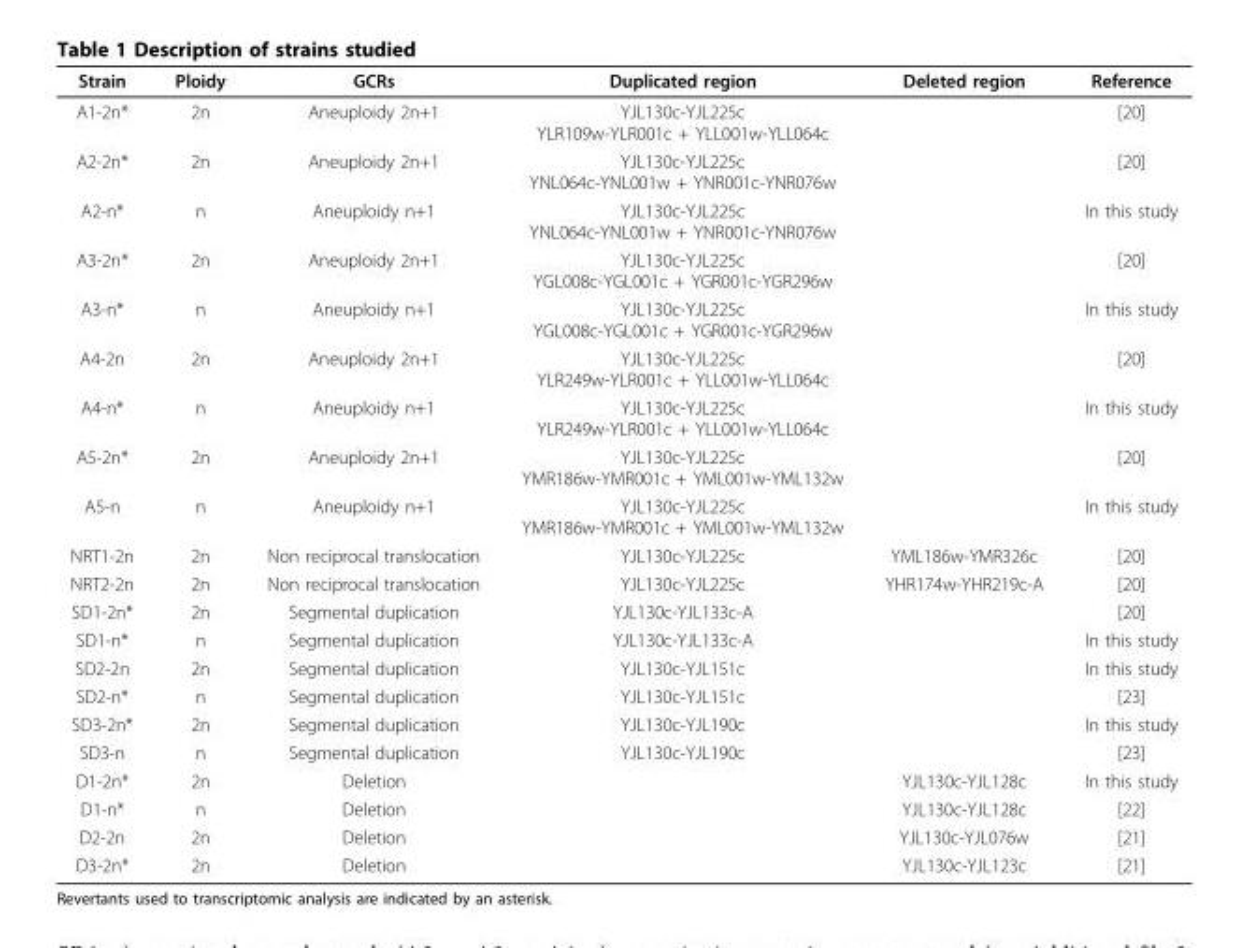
<table><thead><tr><td>Strain</td><td>Ploidy</td><td>GCRs</td><td>Duplicated region</td><td>Deleted region</td><td>Reference</td></tr></thead><tbody><tr><td>A1-2n*</td><td>2n</td><td>Aneuploidy 2n+1</td><td>YJL130c-YJL225c YLR109w-YLR001c + YLL001w-YLL064c</td><td></td><td>[20]</td></tr><tr><td>A2-2n*</td><td>2n</td><td>Aneuploidy 2n+1</td><td>YJL130c-YJL225c YNL064c-YNL001w + YNR001c-YNR076w</td><td></td><td>[20]</td></tr><tr><td>A2-n*</td><td>n</td><td>Aneuploidy n+1</td><td>YJL130c-YJL225c YNL064c-YNL001w + YNR001c-YNR076w</td><td></td><td>In this study</td></tr><tr><td>A3-2n*</td><td>2n</td><td>Aneuploidy 2n+1</td><td>YJL130c-YJL225c YGL008c-YGL001c + YGR001c-YGR296w</td><td></td><td>[20]</td></tr><tr><td>A3-n*</td><td>n</td><td>Aneuploidy n+1</td><td>YJL130c-YJL225c YGL008c-YGL001c + YGR001c-YGR296w</td><td></td><td>In this study</td></tr><tr><td>A4-2n</td><td>2n</td><td>Aneuploidy 2n+1</td><td>YJL130c-YJL225c YLR249w-YLR001c + YLL001w-YLL064c</td><td></td><td>[20]</td></tr><tr><td>A4-n*</td><td>n</td><td>Aneuploidy n+1</td><td>YJL130c-YJL225c YLR249w-YLR001c + YLL001w-YLL064c</td><td></td><td>In this study</td></tr><tr><td>A5-2n*</td><td>2n</td><td>Aneuploidy 2n+1</td><td>YJL130c-YJL225c YMR186w-YMR001c + YML001w-YML132w</td><td></td><td>[20]</td></tr><tr><td>A5-n</td><td>n</td><td>Aneuploidy n+1</td><td>YJL130c-YJL225c YMR186w-YMR001c + YML001w-YML132w</td><td></td><td>In this study</td></tr><tr><td>NRT1-2n</td><td>2n</td><td>Non reciprocal translocation</td><td>YJL130c-YJL225c</td><td>YML186w-YMR326c</td><td>[20]</td></tr><tr><td>NRT2-2n</td><td>2n</td><td>Non reciprocal translocation</td><td>YJL130c-YJL225c</td><td>YHR174w-YHR219c-A</td><td>[20]</td></tr><tr><td>SD1-2n*</td><td>2n</td><td>Segmental duplication</td><td>YJL130c-YJL133c-A</td><td></td><td>[20]</td></tr><tr><td>SD1-n*</td><td>n</td><td>Segmental duplication</td><td>YJL130c-YJL133c-A</td><td></td><td>In this study</td></tr><tr><td>SD2-2n</td><td>2n</td><td>Segmental duplication</td><td>YJL130c-YJL151c</td><td></td><td>In this study</td></tr><tr><td>SD2-n*</td><td>n</td><td>Segmental duplication</td><td>YJL130c-YJL151c</td><td></td><td>[23]</td></tr><tr><td>SD3-2n*</td><td>2n</td><td>Segmental duplication</td><td>YJL130c-YJL190c</td><td></td><td>In this study</td></tr><tr><td>SD3-n</td><td>n</td><td>Segmental duplication</td><td>YJL130c-YJL190c</td><td></td><td>[23]</td></tr><tr><td>D1-2n*</td><td>2n</td><td>Deletion</td><td></td><td>YJL130c-YJL128c</td><td>In this study</td></tr><tr><td>D1-n*</td><td>n</td><td>Deletion</td><td></td><td>YJL130c-YJL128c</td><td>[22]</td></tr><tr><td>D2-2n</td><td>2n</td><td>Deletion</td><td></td><td>YJL130c-YJL076w</td><td>[21]</td></tr><tr><td>D3-2n*</td><td>2n</td><td>Deletion</td><td></td><td>YJL130c-YJL123c</td><td>[21]</td></tr></tbody></table>